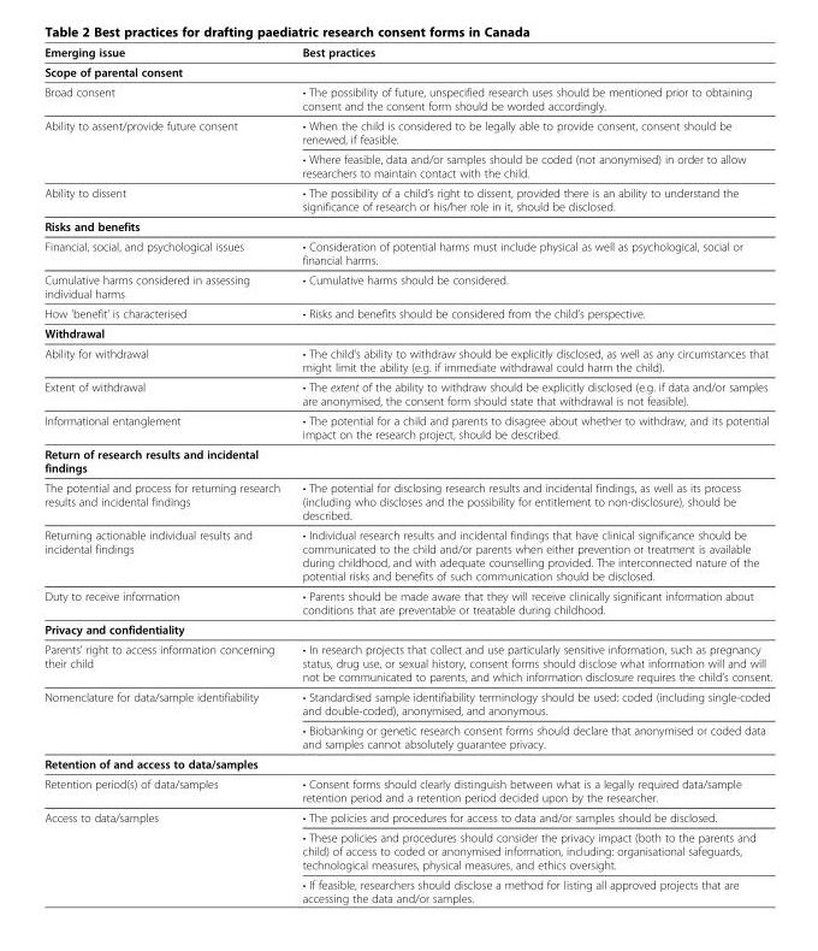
<table><thead><tr><td>Emerging issue</td><td>Best practices</td></tr></thead><tbody><tr><td colspan="2">Scope of parental consent</td></tr><tr><td>Broad consent</td><td>• The possibility of future, unspecified research uses should be mentioned prior to obtaining consent and the consent form should be worded accordingly.</td></tr><tr><td rowspan="2">Ability to assent/provide future consent</td><td>• When the child is considered to be legally able to provide consent, consent should be renewed, if feasible.</td></tr><tr><td>• Where feasible, data and/or samples should be coded (not anonymised) in order to allow researchers to maintain contact with the child.</td></tr><tr><td>Ability to dissent</td><td>• The possibility of a child’s right to dissent, provided there is an ability to understand the significance of research or his/her role in it, should be disclosed.</td></tr><tr><td colspan="2">Risks and benefits</td></tr><tr><td>Financial, social, and psychological issues</td><td>• Consideration of potential harms must include physical as well as psychological, social or financial harms.</td></tr><tr><td>Cumulative harms considered in assessing individual harms</td><td>• Cumulative harms should be considered.</td></tr><tr><td>How ‘benefit’ is characterised</td><td>• Risks and benefits should be considered from the child’s perspective.</td></tr><tr><td colspan="2">Withdrawal</td></tr><tr><td>Ability for withdrawal</td><td>• The child’s ability to withdraw should be explicitly disclosed, as well as any circumstances that might limit the ability (e.g. if immediate withdrawal could harm the child).</td></tr><tr><td>Extent of withdrawal</td><td>• The extent of the ability to withdraw should be explicitly disclosed (e.g. if data and/or samples are anonymised, the consent form should state that withdrawal is not feasible).</td></tr><tr><td>Informational entanglement</td><td>• The potential for a child and parents to disagree about whether to withdraw, and its potential impact on the research project, should be described.</td></tr><tr><td colspan="2">Return of research results and incidental findings</td></tr><tr><td>The potential and process for returning research results and incidental findings</td><td>• The potential for disclosing research results and incidental findings, as well as its process (including who discloses and the possibility for entitlement to non-disclosure), should be described.</td></tr><tr><td>Returning actionable individual results and incidental findings</td><td>• Individual research results and incidental findings that have clinical significance should be communicated to the child and/or parents when either prevention or treatment is available during childhood, and with adequate counselling provided. The interconnected nature of the potential risks and benefits of such communication should be disclosed.</td></tr><tr><td>Duty to receive information</td><td>• Parents should be made aware that they will receive clinically significant information about conditions that are preventable or treatable during childhood.</td></tr><tr><td colspan="2">Privacy and confidentiality</td></tr><tr><td>Parents’ right to access information concerning their child</td><td>• In research projects that collect and use particularly sensitive information, such as pregnancy status, drug use, or sexual history, consent forms should disclose what information will and will not be communicated to parents, and which information disclosure requires the child’s consent.</td></tr><tr><td rowspan="2">Nomenclature for data/sample identifiability</td><td>• Standardised sample identifiability terminology should be used: coded (including single-coded and double-coded), anonymised, and anonymous.</td></tr><tr><td>• Biobanking or genetic research consent forms should declare that anonymised or coded data and samples cannot absolutely guarantee privacy.</td></tr><tr><td colspan="2">Retention of and access to data/samples</td></tr><tr><td>Retention period(s) of data/samples</td><td>• Consent forms should clearly distinguish between what is a legally required data/sample retention period and a retention period decided upon by the researcher.</td></tr><tr><td rowspan="3">Access to data/samples</td><td>• The policies and procedures for access to data and/or samples should be disclosed.</td></tr><tr><td>• These policies and procedures should consider the privacy impact (both to the parents and child) of access to coded or anonymised information, including: organisational safeguards, technological measures, physical measures, and ethics oversight.</td></tr><tr><td>• If feasible, researchers should disclose a method for listing all approved projects that are accessing the data and/or samples.</td></tr></tbody></table>